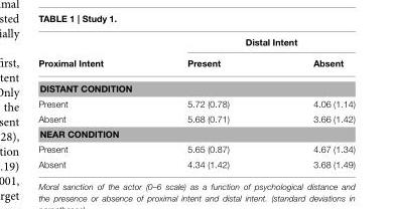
<table><thead><tr><td rowspan="2">Proximal Intent</td><td colspan="2">Distal Intent</td></tr><tr><td>Present</td><td>Absent</td></tr></thead><tbody><tr><td colspan="3">DISTANT CONDITION</td></tr><tr><td>Present</td><td>5.72 (0.78)</td><td>4.06 (1.14)</td></tr><tr><td>Absent</td><td>5.68 (0.71)</td><td>3.66 (1.42)</td></tr><tr><td colspan="3">NEAR CONDITION</td></tr><tr><td>Present</td><td>5.65 (0.87)</td><td>4.67 (1.34)</td></tr><tr><td>Absent</td><td>4.34 (1.42)</td><td>3.68 (1.49)</td></tr></tbody></table>